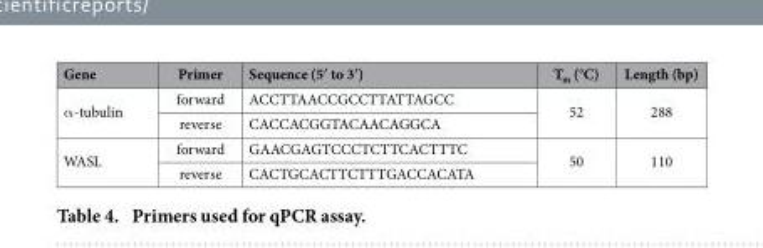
<table><thead><tr><td>Gene</td><td>Primer</td><td>Sequence (5′ to 3′ )</td><td>T<sub>m</sub> (°C)</td><td>Length (bp)</td></tr></thead><tbody><tr><td rowspan="2">α -tubulin</td><td>forward</td><td>ACCTTAACCGCCTTATTAGCC</td><td rowspan="2">52</td><td rowspan="2">288</td></tr><tr><td>reverse</td><td>CACCACGGTACAACAGGCA</td></tr><tr><td rowspan="2">WASL</td><td>forward</td><td>GAACGAGTCCCTCTTCACTTTC</td><td rowspan="2">50</td><td rowspan="2">110</td></tr><tr><td>reverse</td><td>CACTGCACTTCTTTGACCACATA</td></tr></tbody></table>